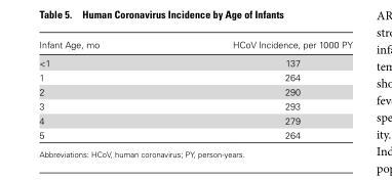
<table><thead><tr><td>Infant Age, mo</td><td>HCoV Incidence, per 1000 PY</td></tr></thead><tbody><tr><td>&lt;1</td><td>137</td></tr><tr><td>1</td><td>264</td></tr><tr><td>2</td><td>290</td></tr><tr><td>3</td><td>293</td></tr><tr><td>4</td><td>279</td></tr><tr><td>5</td><td>264</td></tr></tbody></table>